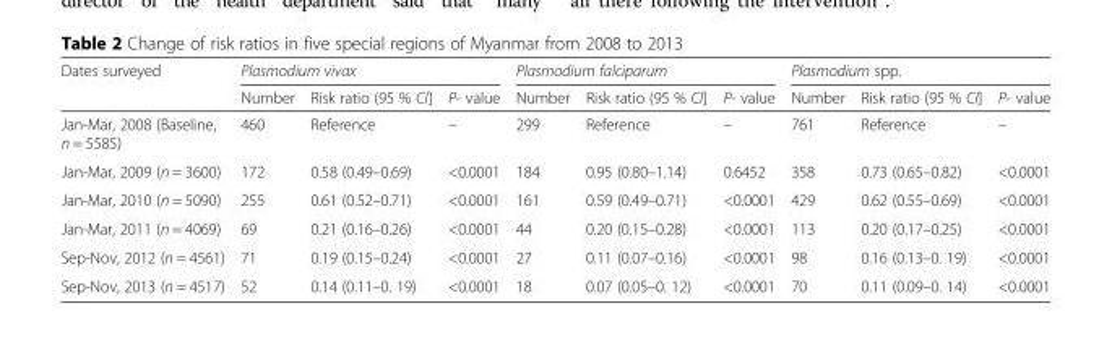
<table><thead><tr><td rowspan="2">Dates surveyed</td><td colspan="3">Plasmodium vivax</td><td colspan="3">Plasmodium falciparum</td><td colspan="3">Plasmodium spp.</td></tr><tr><td>Number</td><td>Risk ratio (95 % CI]</td><td>P- value</td><td>Number</td><td>Risk ratio (95 % CI]</td><td>P- value</td><td>Number</td><td>Risk ratio (95 % CI]</td><td>P- value</td></tr></thead><tbody><tr><td>Jan-Mar, 2008 (Baseline, n = 5585)</td><td>460</td><td>Reference</td><td>–</td><td>299</td><td>Reference</td><td>–</td><td>761</td><td>Reference</td><td>–</td></tr><tr><td>Jan-Mar, 2009 (n = 3600)</td><td>172</td><td>0.58 (0.49–0.69)</td><td>&lt;0.0001</td><td>184</td><td>0.95 (0.80–1.14)</td><td>0.6452</td><td>358</td><td>0.73 (0.65–0.82)</td><td>&lt;0.0001</td></tr><tr><td>Jan-Mar, 2010 (n = 5090)</td><td>255</td><td>0.61 (0.52–0.71)</td><td>&lt;0.0001</td><td>161</td><td>0.59 (0.49–0.71)</td><td>&lt;0.0001</td><td>429</td><td>0.62 (0.55–0.69)</td><td>&lt;0.0001</td></tr><tr><td>Jan-Mar, 2011 (n = 4069)</td><td>69</td><td>0.21 (0.16–0.26)</td><td>&lt;0.0001</td><td>44</td><td>0.20 (0.15–0.28)</td><td>&lt;0.0001</td><td>113</td><td>0.20 (0.17–0.25)</td><td>&lt;0.0001</td></tr><tr><td>Sep-Nov, 2012 (n = 4561)</td><td>71</td><td>0.19 (0.15–0.24)</td><td>&lt;0.0001</td><td>27</td><td>0.11 (0.07–0.16)</td><td>&lt;0.0001</td><td>98</td><td>0.16 (0.13–0. 19)</td><td>&lt;0.0001</td></tr><tr><td>Sep-Nov, 2013 (n = 4517)</td><td>52</td><td>0.14 (0.11–0. 19)</td><td>&lt;0.0001</td><td>18</td><td>0.07 (0.05–0. 12)</td><td>&lt;0.0001</td><td>70</td><td>0.11 (0.09–0. 14)</td><td>&lt;0.0001</td></tr></tbody></table>